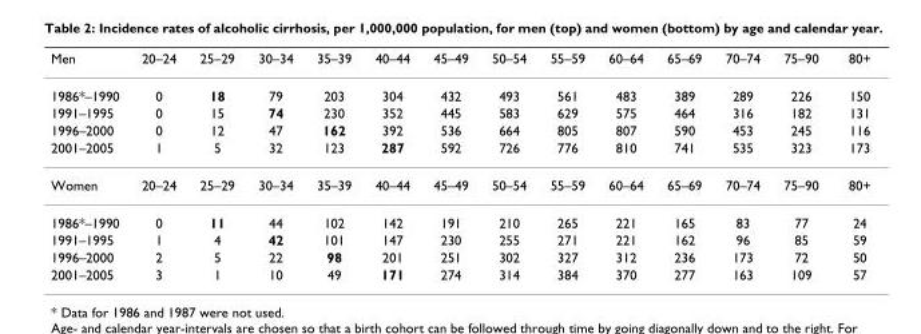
<table><thead><tr><td>Men</td><td>20–24</td><td>25–29</td><td>30–34</td><td>35–39</td><td>40–44</td><td>45–49</td><td>50–54</td><td>55–59</td><td>60–64</td><td>65–69</td><td>70–74</td><td>75–90</td><td>80+</td></tr></thead><tbody><tr><td>1986*–1990</td><td>0</td><td>18</td><td>79</td><td>203</td><td>304</td><td>432</td><td>493</td><td>561</td><td>483</td><td>389</td><td>289</td><td>226</td><td>150</td></tr><tr><td>1991–1995</td><td>0</td><td>15</td><td>74</td><td>230</td><td>352</td><td>445</td><td>583</td><td>629</td><td>575</td><td>464</td><td>316</td><td>182</td><td>131</td></tr><tr><td>1996–2000</td><td>0</td><td>12</td><td>47</td><td>162</td><td>392</td><td>536</td><td>664</td><td>805</td><td>807</td><td>590</td><td>453</td><td>245</td><td>116</td></tr><tr><td>2001–2005</td><td>1</td><td>5</td><td>32</td><td>123</td><td>287</td><td>592</td><td>726</td><td>776</td><td>810</td><td>741</td><td>535</td><td>323</td><td>173</td></tr><tr><td>Women</td><td>20–24</td><td>25–29</td><td>30–34</td><td>35–39</td><td>40–44</td><td>45–49</td><td>50–54</td><td>55–59</td><td>60–64</td><td>65–69</td><td>70–74</td><td>75–90</td><td>80+</td></tr><tr><td>1986*–1990</td><td>0</td><td>11</td><td>44</td><td>102</td><td>142</td><td>191</td><td>210</td><td>265</td><td>221</td><td>165</td><td>83</td><td>77</td><td>24</td></tr><tr><td>1991–1995</td><td>1</td><td>4</td><td>42</td><td>101</td><td>147</td><td>230</td><td>255</td><td>271</td><td>221</td><td>162</td><td>96</td><td>85</td><td>59</td></tr><tr><td>1996–2000</td><td>2</td><td>5</td><td>22</td><td>98</td><td>201</td><td>251</td><td>302</td><td>327</td><td>312</td><td>236</td><td>173</td><td>72</td><td>50</td></tr><tr><td>2001–2005</td><td>3</td><td>1</td><td>10</td><td>49</td><td>171</td><td>274</td><td>314</td><td>384</td><td>370</td><td>277</td><td>163</td><td>109</td><td>57</td></tr></tbody></table>